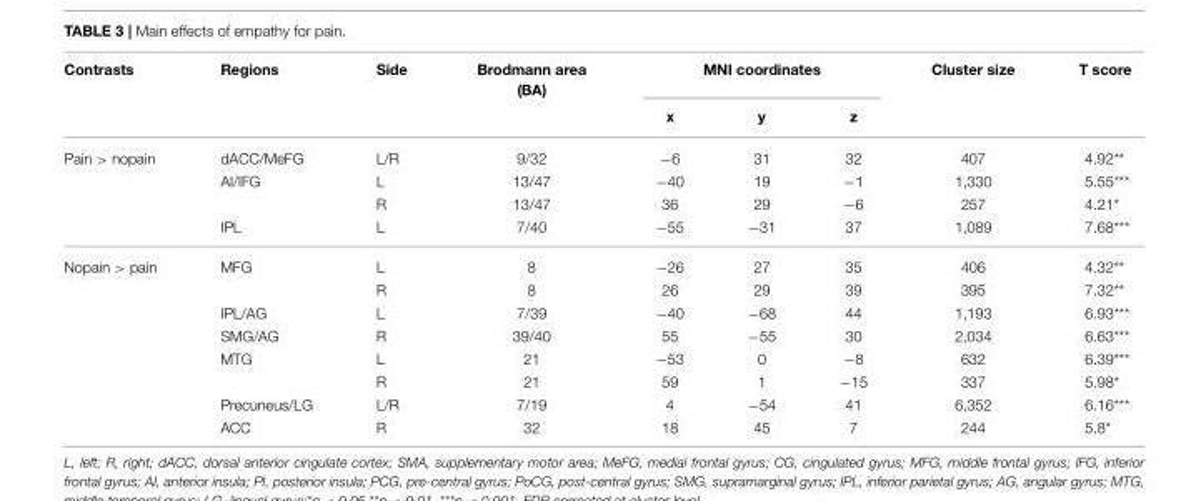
<table><thead><tr><td rowspan="2">Contrasts</td><td rowspan="2">Regions</td><td rowspan="2">Side</td><td rowspan="2">Brodmann area (BA)</td><td colspan="3">MNI coordinates</td><td rowspan="2">Cluster size</td><td rowspan="2">T score</td></tr><tr><td>x</td><td>y</td><td>z</td></tr></thead><tbody><tr><td rowspan="4">Pain &gt; nopain</td><td>dACC/MeFG</td><td>L/R</td><td>9/32</td><td>−6</td><td>31</td><td>32</td><td>407</td><td>4.92**</td></tr><tr><td>AI/IFG</td><td>L</td><td>13/47</td><td>−40</td><td>19</td><td>−1</td><td>1,330</td><td>5.55***</td></tr><tr><td></td><td>R</td><td>13/47</td><td>36</td><td>29</td><td>−6</td><td>257</td><td>4.21*</td></tr><tr><td>IPL</td><td>L</td><td>7/40</td><td>−55</td><td>−31</td><td>37</td><td>1,089</td><td>7.68***</td></tr><tr><td rowspan="8">Nopain &gt; pain</td><td>MFG</td><td>L</td><td>8</td><td>−26</td><td>27</td><td>35</td><td>406</td><td>4.32**</td></tr><tr><td></td><td>R</td><td>8</td><td>26</td><td>29</td><td>39</td><td>395</td><td>7.32**</td></tr><tr><td>IPL/AG</td><td>L</td><td>7/39</td><td>−40</td><td>−68</td><td>44</td><td>1,193</td><td>6.93***</td></tr><tr><td>SMG/AG</td><td>R</td><td>39/40</td><td>55</td><td>−55</td><td>30</td><td>2,034</td><td>6.63***</td></tr><tr><td>MTG</td><td>L</td><td>21</td><td>−53</td><td>0</td><td>−8</td><td>632</td><td>6.39***</td></tr><tr><td></td><td>R</td><td>21</td><td>59</td><td>1</td><td>−15</td><td>337</td><td>5.98*</td></tr><tr><td>Precuneus/LG</td><td>L/R</td><td>7/19</td><td>4</td><td>−54</td><td>41</td><td>6,352</td><td>6.16***</td></tr><tr><td>ACC</td><td>R</td><td>32</td><td>18</td><td>45</td><td>7</td><td>244</td><td>5.8*</td></tr></tbody></table>